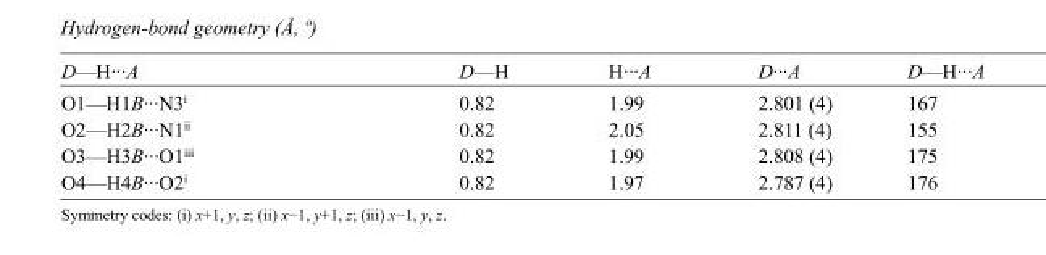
<table><tbody><tr><td>D—H···A</td><td>D—H</td><td>H···A</td><td>D···A</td><td>D—H···A</td></tr><tr><td>O1—H1B···N3<sup>i</sup></td><td>0.82</td><td>1.99</td><td>2.801 (4)</td><td>167</td></tr><tr><td>O2—H2B···N1<sup>ii</sup></td><td>0.82</td><td>2.05</td><td>2.811 (4)</td><td>155</td></tr><tr><td>O3—H3B···O1<sup>iii</sup></td><td>0.82</td><td>1.99</td><td>2.808 (4)</td><td>175</td></tr><tr><td>O4—H4B···O2<sup>i</sup></td><td>0.82</td><td>1.97</td><td>2.787 (4)</td><td>176</td></tr></tbody></table>